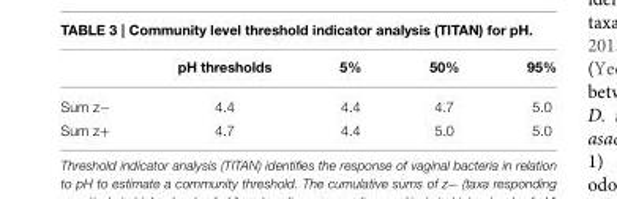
<table><thead><tr><td></td><td>pH thresholds</td><td>5%</td><td>50%</td><td>95%</td></tr></thead><tbody><tr><td>Sum z−</td><td>4.4</td><td>4.4</td><td>4.7</td><td>5.0</td></tr><tr><td>Sum z+</td><td>4.7</td><td>4.4</td><td>5.0</td><td>5.0</td></tr></tbody></table>